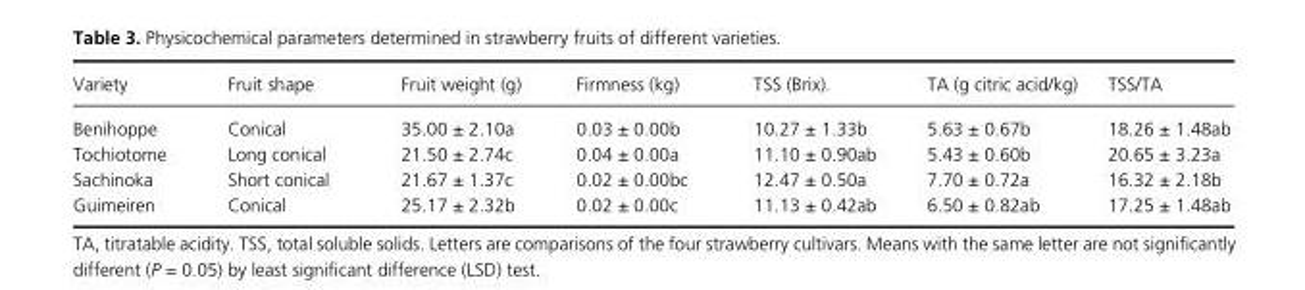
<table><thead><tr><td>Variety</td><td>Fruit shape</td><td>Fruit weight (g)</td><td>Firmness (kg)</td><td>TSS (Brix).</td><td>TA (g citric acid/kg)</td><td>TSS/TA</td></tr></thead><tbody><tr><td>Benihoppe</td><td>Conical</td><td>35.00 ± 2.10a</td><td>0.03 ± 0.00b</td><td>10.27 ± 1.33b</td><td>5.63 ± 0.67b</td><td>18.26 ± 1.48ab</td></tr><tr><td>Tochiotome</td><td>Long conical</td><td>21.50 ± 2.74c</td><td>0.04 ± 0.00a</td><td>11.10 ± 0.90ab</td><td>5.43 ± 0.60b</td><td>20.65 ± 3.23a</td></tr><tr><td>Sachinoka</td><td>Short conical</td><td>21.67 ± 1.37c</td><td>0.02 ± 0.00bc</td><td>12.47 ± 0.50a</td><td>7.70 ± 0.72a</td><td>16.32 ± 2.18b</td></tr><tr><td>Guimeiren</td><td>Conical</td><td>25.17 ± 2.32b</td><td>0.02 ± 0.00c</td><td>11.13 ± 0.42ab</td><td>6.50 ± 0.82ab</td><td>17.25 ± 1.48ab</td></tr></tbody></table>